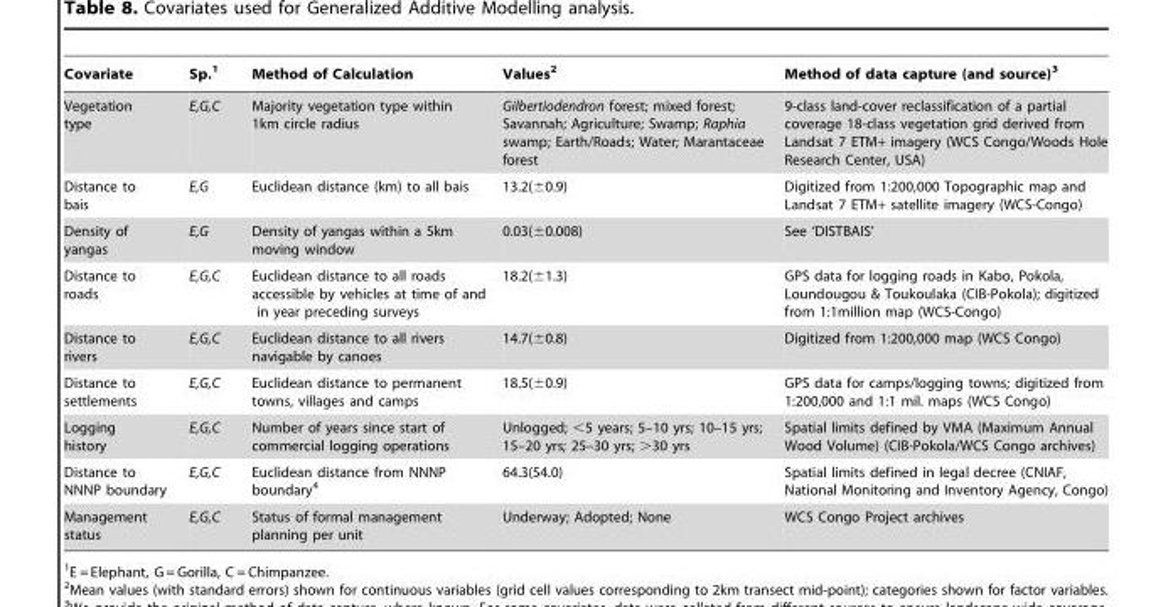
<table><thead><tr><td>Covariate</td><td>Sp.<sup>1</sup></td><td>Method of Calculation</td><td>Values<sup>2</sup></td><td>Method of data capture (and source)<sup>3</sup></td></tr></thead><tbody><tr><td>Vegetation type</td><td>E,G,C</td><td>Majority vegetation type within 1km circle radius</td><td>Gilbertiodendron forest; mixed forest; Savannah; Agriculture; Swamp; Raphia swamp; Earth/Roads; Water; Marantaceae forest</td><td>9-class land-cover reclassification of a partial coverage 18-class vegetation grid derived from Landsat 7 ETM+ imagery (WCS Congo/Woods Hole Research Center, USA)</td></tr><tr><td>Distance to bais</td><td>E,G</td><td>Euclidean distance (km) to all bais</td><td>13.2(±0.9)</td><td>Digitized from 1:200,000 Topographic map and Landsat 7 ETM+ satellite imagery (WCS-Congo)</td></tr><tr><td>Density of yangas</td><td>E,G</td><td>Density of yangas within a 5km moving window</td><td>0.03(±0.008)</td><td>See ‘DISTBAIS’</td></tr><tr><td>Distance to roads</td><td>E,G,C</td><td>Euclidean distance to all roads accessible by vehicles at time of and in year preceding surveys</td><td>18.2(±1.3)</td><td>GPS data for logging roads in Kabo, Pokola, Loundougou &amp; Toukoulaka (CIB-Pokola); digitized from 1:1million map (WCS-Congo)</td></tr><tr><td>Distance to rivers</td><td>E,G,C</td><td>Euclidean distance to all rivers navigable by canoes</td><td>14.7(±0.8)</td><td>Digitized from 1:200,000 map (WCS Congo)</td></tr><tr><td>Distance to settlements</td><td>E,G,C</td><td>Euclidean distance to permanent towns, villages and camps</td><td>18.5(±0.9)</td><td>GPS data for camps/logging towns; digitized from 1:200,000 and 1:1 mil. maps (WCS Congo)</td></tr><tr><td>Logging history</td><td>E,G,C</td><td>Number of years since start of commercial logging operations</td><td>Unlogged; &lt;5 years; 5–10 yrs; 10–15 yrs; 15–20 yrs; 25–30 yrs; &gt;30 yrs</td><td>Spatial limits defined by VMA (Maximum Annual Wood Volume) (CIB-Pokola/WCS Congo archives)</td></tr><tr><td>Distance to NNNP boundary</td><td>E,G,C</td><td>Euclidean distance from NNNP boundary<sup>4</sup></td><td>64.3(54.0)</td><td>Spatial limits defined in legal decree (CNIAF, National Monitoring and Inventory Agency, Congo)</td></tr><tr><td>Management status</td><td>E,G,C</td><td>Status of formal management planning per unit</td><td>Underway; Adopted; None</td><td>WCS Congo Project archives</td></tr></tbody></table>